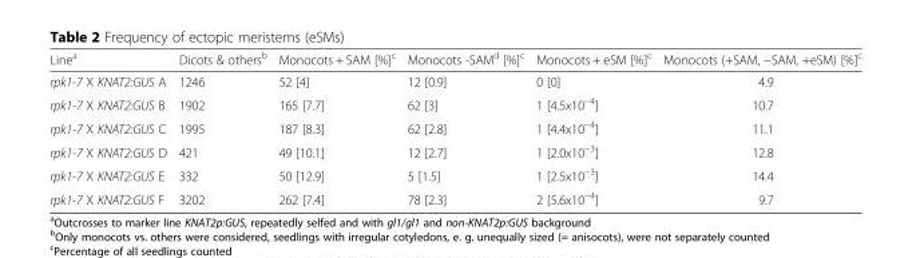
<table><thead><tr><td>Line<sup>a</sup></td><td>Dicots &amp; others<sup>b</sup></td><td>Monocots + SAM [%]<sup>c</sup></td><td>Monocots -SAM<sup>d</sup> [%]<sup>c</sup></td><td>Monocots + eSM [%]<sup>c</sup></td><td>Monocots (+SAM, −SAM, +eSM) [%]<sup>c</sup></td></tr></thead><tbody><tr><td>rpk1-7 X KNAT2:GUS A</td><td>1246</td><td>52 [4]</td><td>12 [0.9]</td><td>0 [0]</td><td>4.9</td></tr><tr><td>rpk1-7 X KNAT2:GUS B</td><td>1902</td><td>165 [7.7]</td><td>62 [3]</td><td>1 [4.5x10<sup>−4</sup>]</td><td>10.7</td></tr><tr><td>rpk1-7 X KNAT2:GUS C</td><td>1995</td><td>187 [8.3]</td><td>62 [2.8]</td><td>1 [4.4x10<sup>−4</sup>]</td><td>11.1</td></tr><tr><td>rpk1-7 X KNAT2:GUS D</td><td>421</td><td>49 [10.1]</td><td>12 [2.7]</td><td>1 [2.0x10<sup>−3</sup>]</td><td>12.8</td></tr><tr><td>rpk1-7 X KNAT2:GUS E</td><td>332</td><td>50 [12.9]</td><td>5 [1.5]</td><td>1 [2.5x10<sup>−3</sup>]</td><td>14.4</td></tr><tr><td>rpk1-7 X KNAT2:GUS F</td><td>3202</td><td>262 [7.4]</td><td>78 [2.3]</td><td>2 [5.6x10<sup>−4</sup>]</td><td>9.7</td></tr></tbody></table>